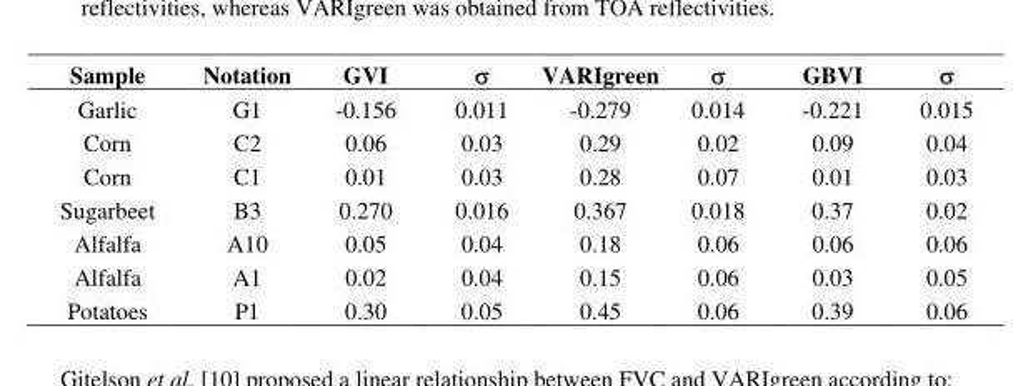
<table><thead><tr><td>Sample</td><td>Notation</td><td>GVI</td><td></td><td>VARIgreen</td><td>σ</td><td>GBVI</td><td>σ</td></tr></thead><tbody><tr><td>Garlic</td><td>G1</td><td>-0.156</td><td>0.011</td><td>-0.279</td><td>0.014</td><td>-0.221</td><td>0.015</td></tr><tr><td>Corn</td><td>C2</td><td>0.06</td><td>0.03</td><td>0.29</td><td>0.02</td><td>0.09</td><td>0.04</td></tr><tr><td>Corn</td><td>C1</td><td>0.01</td><td>0.03</td><td>0.28</td><td>0.07</td><td>0.01</td><td>0.03</td></tr><tr><td>Sugarbeet</td><td>B3</td><td>0.270</td><td>0.016</td><td>0.367</td><td>0.018</td><td>0.37</td><td>0.02</td></tr><tr><td>Alfalfa</td><td>A10</td><td>0.05</td><td>0.04</td><td>0.18</td><td>0.06</td><td>0.06</td><td>0.06</td></tr><tr><td>Alfalfa</td><td>A1</td><td>0.02</td><td>0.04</td><td>0.15</td><td>0.06</td><td>0.03</td><td>0.05</td></tr><tr><td>Potatoes</td><td>P1</td><td>0.30</td><td>0.05</td><td>0.45</td><td>0.06</td><td>0.39</td><td>0.06</td></tr></tbody></table>